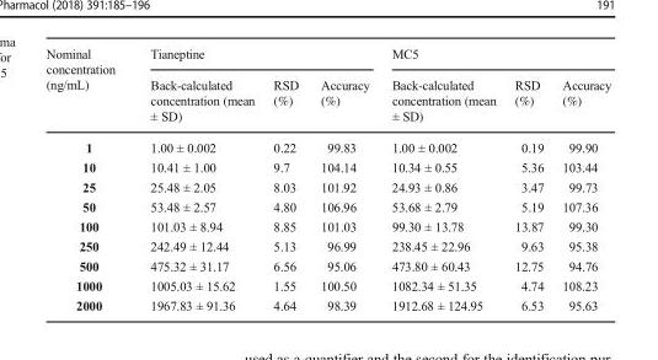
<table><thead><tr><td rowspan="2">Nominal concentration (ng/mL)</td><td colspan="3">Tianeptine</td><td colspan="3">MC5</td></tr><tr><td>Back-calculated concentration (mean ± SD)</td><td>RSD (%)</td><td>Accuracy (%)</td><td>Back-calculated concentration (mean ± SD)</td><td>RSD (%)</td><td>Accuracy (%)</td></tr></thead><tbody><tr><td>1</td><td>1.00 ± 0.002</td><td>0.22</td><td>99.83</td><td>1.00 ± 0.002</td><td>0.19</td><td>99.90</td></tr><tr><td>10</td><td>10.41 ± 1.00</td><td>9.7</td><td>104.14</td><td>10.34 ± 0.55</td><td>5.36</td><td>103.44</td></tr><tr><td>25</td><td>25.48 ± 2.05</td><td>8.03</td><td>101.92</td><td>24.93 ± 0.86</td><td>3.47</td><td>99.73</td></tr><tr><td>50</td><td>53.48 ± 2.57</td><td>4.80</td><td>106.96</td><td>53.68 ± 2.79</td><td>5.19</td><td>107.36</td></tr><tr><td>100</td><td>101.03 ± 8.94</td><td>8.85</td><td>101.03</td><td>99.30 ± 13.78</td><td>13.87</td><td>99.30</td></tr><tr><td>250</td><td>242.49 ± 12.44</td><td>5.13</td><td>96.99</td><td>238.45 ± 22.96</td><td>9.63</td><td>95.38</td></tr><tr><td>500</td><td>475.32 ± 31.17</td><td>6.56</td><td>95.06</td><td>473.80 ± 60.43</td><td>12.75</td><td>94.76</td></tr><tr><td>1000</td><td>1005.03 ± 15.62</td><td>1.55</td><td>100.50</td><td>1082.34 ± 51.35</td><td>4.74</td><td>108.23</td></tr><tr><td>2000</td><td>1967.83 ± 91.36</td><td>4.64</td><td>98.39</td><td>1912.68 ± 124.95</td><td>6.53</td><td>95.63</td></tr></tbody></table>